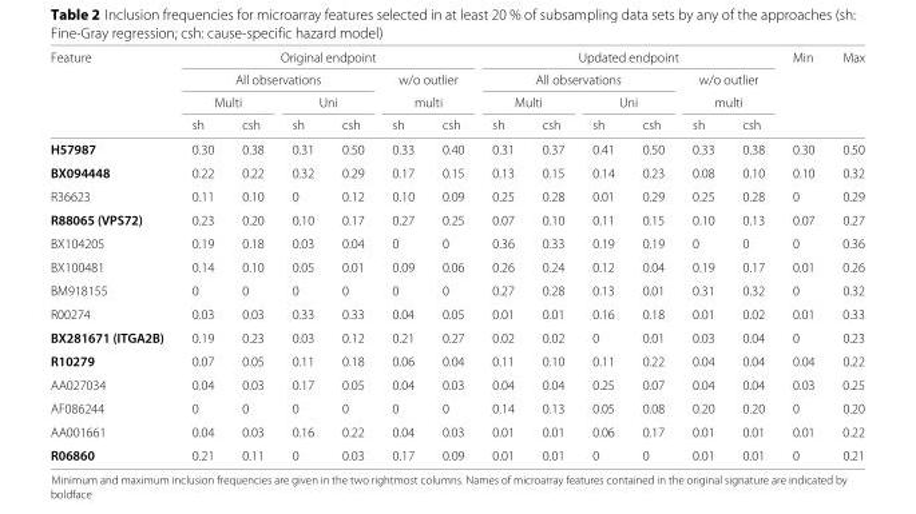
<table><thead><tr><td rowspan="4">Feature</td><td rowspan="2" colspan="4">Original endpoint All observations</td><td></td><td></td><td rowspan="2" colspan="4">Updated endpoint All observations</td><td></td><td></td><td rowspan="4">Min</td><td rowspan="4">Max</td></tr><tr><td rowspan="2" colspan="2">w/o outlier multi</td><td rowspan="2" colspan="2">w/o outlier multi</td></tr><tr><td colspan="2">Multi</td><td colspan="2">Uni</td><td colspan="2">Multi</td><td colspan="2">Uni</td></tr><tr><td>sh</td><td>csh</td><td>sh</td><td>csh</td><td>sh</td><td>csh</td><td>sh</td><td>csh</td><td>sh</td><td>csh</td><td>sh</td><td>csh</td></tr></thead><tbody><tr><td>H57987</td><td>0.30</td><td>0.38</td><td>0.31</td><td>0.50</td><td>0.33</td><td>0.40</td><td>0.31</td><td>0.37</td><td>0.41</td><td>0.50</td><td>0.33</td><td>0.38</td><td>0.30</td><td>0.50</td></tr><tr><td>BX094448</td><td>0.22</td><td>0.22</td><td>0.32</td><td>0.29</td><td>0.17</td><td>0.15</td><td>0.13</td><td>0.15</td><td>0.14</td><td>0.23</td><td>0.08</td><td>0.10</td><td>0.10</td><td>0.32</td></tr><tr><td>R36623</td><td>0.11</td><td>0.10</td><td>0</td><td>0.12</td><td>0.10</td><td>0.09</td><td>0.25</td><td>0.28</td><td>0.01</td><td>0.29</td><td>0.25</td><td>0.28</td><td>0</td><td>0.29</td></tr><tr><td>R88065 (VPS72)</td><td>0.23</td><td>0.20</td><td>0.10</td><td>0.17</td><td>0.27</td><td>0.25</td><td>0.07</td><td>0.10</td><td>0.11</td><td>0.15</td><td>0.10</td><td>0.13</td><td>0.07</td><td>0.27</td></tr><tr><td>BX104205</td><td>0.19</td><td>0.18</td><td>0.03</td><td>0.04</td><td>0</td><td>0</td><td>0.36</td><td>0.33</td><td>0.19</td><td>0.19</td><td>0</td><td>0</td><td>0</td><td>0.36</td></tr><tr><td>BX100481</td><td>0.14</td><td>0.10</td><td>0.05</td><td>0.01</td><td>0.09</td><td>0.06</td><td>0.26</td><td>0.24</td><td>0.12</td><td>0.04</td><td>0.19</td><td>0.17</td><td>0.01</td><td>0.26</td></tr><tr><td>BM918155</td><td>0</td><td>0</td><td>0</td><td>0</td><td>0</td><td>0</td><td>0.27</td><td>0.28</td><td>0.13</td><td>0.01</td><td>0.31</td><td>0.32</td><td>0</td><td>0.32</td></tr><tr><td>R00274</td><td>0.03</td><td>0.03</td><td>0.33</td><td>0.33</td><td>0.04</td><td>0.05</td><td>0.01</td><td>0.01</td><td>0.16</td><td>0.18</td><td>0.01</td><td>0.02</td><td>0.01</td><td>0.33</td></tr><tr><td>BX281671 (ITGA2B)</td><td>0.19</td><td>0.23</td><td>0.03</td><td>0.12</td><td>0.21</td><td>0.27</td><td>0.02</td><td>0.02</td><td>0</td><td>0.01</td><td>0.03</td><td>0.04</td><td>0</td><td>0.23</td></tr><tr><td>R10279</td><td>0.07</td><td>0.05</td><td>0.11</td><td>0.18</td><td>0.06</td><td>0.04</td><td>0.11</td><td>0.10</td><td>0.11</td><td>0.22</td><td>0.04</td><td>0.04</td><td>0.04</td><td>0.22</td></tr><tr><td>AA027034</td><td>0.04</td><td>0.03</td><td>0.17</td><td>0.05</td><td>0.04</td><td>0.03</td><td>0.04</td><td>0.04</td><td>0.25</td><td>0.07</td><td>0.04</td><td>0.04</td><td>0.03</td><td>0.25</td></tr><tr><td>AF086244</td><td>0</td><td>0</td><td>0</td><td>0</td><td>0</td><td>0</td><td>0.14</td><td>0.13</td><td>0.05</td><td>0.08</td><td>0.20</td><td>0.20</td><td>0</td><td>0.20</td></tr><tr><td>AA001661</td><td>0.04</td><td>0.03</td><td>0.16</td><td>0.22</td><td>0.04</td><td>0.03</td><td>0.01</td><td>0.01</td><td>0.06</td><td>0.17</td><td>0.01</td><td>0.01</td><td>0.01</td><td>0.22</td></tr><tr><td>R06860</td><td>0.21</td><td>0.11</td><td>0</td><td>0.03</td><td>0.17</td><td>0.09</td><td>0.01</td><td>0.01</td><td>0</td><td>0</td><td>0.01</td><td>0.01</td><td>0</td><td>0.21</td></tr></tbody></table>